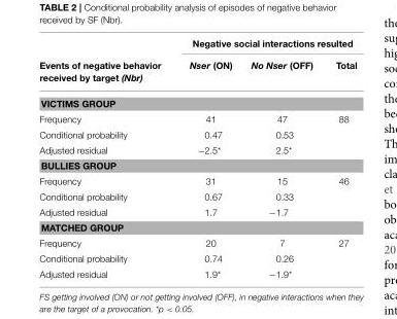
<table><thead><tr><td rowspan="2">Events of negative behavior received by target (Nbr)</td><td colspan="3">Negative social interactions resulted</td></tr><tr><td>Nser (ON)</td><td>No Nser (OFF)</td><td>Total</td></tr></thead><tbody><tr><td colspan="4">VICTIMS GROUP</td></tr><tr><td>Frequency</td><td>41</td><td>47</td><td>88</td></tr><tr><td>Conditional probability</td><td>0.47</td><td>0.53</td><td></td></tr><tr><td>Adjusted residual</td><td>−2.5*</td><td>2.5*</td><td></td></tr><tr><td colspan="4">BULLIES GROUP</td></tr><tr><td>Frequency</td><td>31</td><td>15</td><td>46</td></tr><tr><td>Conditional probability</td><td>0.67</td><td>0.33</td><td></td></tr><tr><td>Adjusted residual</td><td>1.7</td><td>−1.7</td><td></td></tr><tr><td colspan="4">MATCHED GROUP</td></tr><tr><td>Frequency</td><td>20</td><td>7</td><td>27</td></tr><tr><td>Conditional probability</td><td>0.74</td><td>0.26</td><td></td></tr><tr><td>Adjusted residual</td><td>1.9*</td><td>−1.9*</td><td></td></tr></tbody></table>